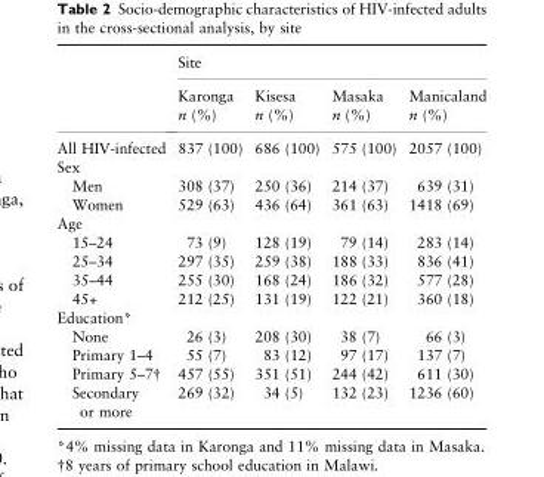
<table><thead><tr><td rowspan="2"></td><td colspan="4">Site</td></tr><tr><td>Karonga n (%)</td><td>Kisesa n (%)</td><td>Masaka n (%)</td><td>Manicaland n (%)</td></tr></thead><tbody><tr><td>All HIV-infected</td><td>837 (100)</td><td>686 (100)</td><td>575 (100)</td><td>2057 (100)</td></tr><tr><td colspan="5">Sex</td></tr><tr><td>Men</td><td>308 (37)</td><td>250 (36)</td><td>214 (37)</td><td>639 (31)</td></tr><tr><td>Women</td><td>529 (63)</td><td>436 (64)</td><td>361 (63)</td><td>1418 (69)</td></tr><tr><td colspan="5">Age</td></tr><tr><td>15–24</td><td>73 (9)</td><td>128 (19)</td><td>79 (14)</td><td>283 (14)</td></tr><tr><td>25–34</td><td>297 (35)</td><td>259 (38)</td><td>188 (33)</td><td>836 (41)</td></tr><tr><td>35–44</td><td>255 (30)</td><td>168 (24)</td><td>186 (32)</td><td>577 (28)</td></tr><tr><td>45+</td><td>212 (25)</td><td>131 (19)</td><td>122 (21)</td><td>360 (18)</td></tr><tr><td colspan="5">Education*</td></tr><tr><td>None</td><td>26 (3)</td><td>208 (30)</td><td>38 (7)</td><td>66 (3)</td></tr><tr><td>Primary 1–4</td><td>55 (7)</td><td>83 (12)</td><td>97 (17)</td><td>137 (7)</td></tr><tr><td>Primary 5–7†</td><td>457 (55)</td><td>351 (51)</td><td>244 (42)</td><td>611 (30)</td></tr><tr><td>Secondary or more</td><td>269 (32)</td><td>34 (5)</td><td>132 (23)</td><td>1236 (60)</td></tr></tbody></table>